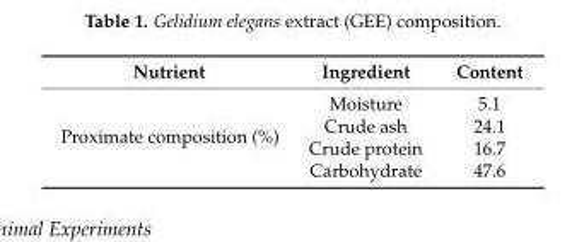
<table><thead><tr><td>Nutrient</td><td>Ingredient</td><td>Content</td></tr></thead><tbody><tr><td rowspan="4">Proximate composition (%)</td><td>Moisture</td><td>5.1</td></tr><tr><td>Crude ash</td><td>24.1</td></tr><tr><td>Crude protein</td><td>16.7</td></tr><tr><td>Carbohydrate</td><td>47.6</td></tr></tbody></table>